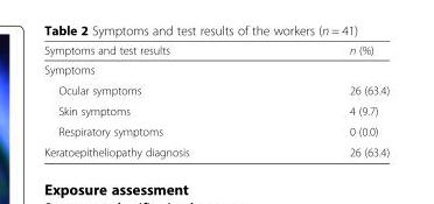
<table><thead><tr><td>Symptoms and test results</td><td>n (%)</td></tr></thead><tbody><tr><td colspan="2">Symptoms</td></tr><tr><td>Ocular symptoms</td><td>26 (63.4)</td></tr><tr><td>Skin symptoms</td><td>4 (9.7)</td></tr><tr><td>Respiratory symptoms</td><td>0 (0.0)</td></tr><tr><td>Keratoepitheliopathy diagnosis</td><td>26 (63.4)</td></tr></tbody></table>